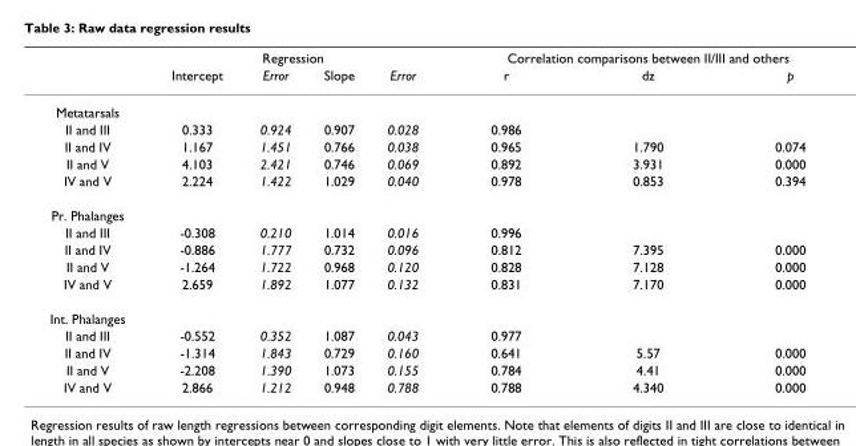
<table><thead><tr><td rowspan="2"></td><td colspan="4">Regression</td><td colspan="3">Correlation comparisons between II/III and others</td></tr><tr><td>Intercept</td><td>Error</td><td>Slope</td><td>Error</td><td>r</td><td>dz</td><td>p</td></tr></thead><tbody><tr><td colspan="8">Metatarsals</td></tr><tr><td>II and III</td><td>0.333</td><td>0.924</td><td>0.907</td><td>0.028</td><td>0.986</td><td></td><td></td></tr><tr><td>II and IV</td><td>1.167</td><td>1.451</td><td>0.766</td><td>0.038</td><td>0.965</td><td>1.790</td><td>0.074</td></tr><tr><td>II and V</td><td>4.103</td><td>2.421</td><td>0.746</td><td>0.069</td><td>0.892</td><td>3.931</td><td>0.000</td></tr><tr><td>IV and V</td><td>2.224</td><td>1.422</td><td>1.029</td><td>0.040</td><td>0.978</td><td>0.853</td><td>0.394</td></tr><tr><td colspan="8">Pr. Phalanges</td></tr><tr><td>II and III</td><td>-0.308</td><td>0.210</td><td>1.014</td><td>0.016</td><td>0.996</td><td></td><td></td></tr><tr><td>II and IV</td><td>-0.886</td><td>1.777</td><td>0.732</td><td>0.096</td><td>0.812</td><td>7.395</td><td>0.000</td></tr><tr><td>II and V</td><td>-1.264</td><td>1.722</td><td>0.968</td><td>0.120</td><td>0.828</td><td>7.128</td><td>0.000</td></tr><tr><td>IV and V</td><td>2.659</td><td>1.892</td><td>1.077</td><td>0.132</td><td>0.831</td><td>7.170</td><td>0.000</td></tr><tr><td colspan="8">Int. Phalanges</td></tr><tr><td>II and III</td><td>-0.552</td><td>0.352</td><td>1.087</td><td>0.043</td><td>0.977</td><td></td><td></td></tr><tr><td>II and IV</td><td>-1.314</td><td>1.843</td><td>0.729</td><td>0.160</td><td>0.641</td><td>5.57</td><td>0.000</td></tr><tr><td>II and V</td><td>-2.208</td><td>1.390</td><td>1.073</td><td>0.155</td><td>0.784</td><td>4.41</td><td>0.000</td></tr><tr><td>IV and V</td><td>2.866</td><td>1.212</td><td>0.948</td><td>0.788</td><td>0.788</td><td>4.340</td><td>0.000</td></tr></tbody></table>